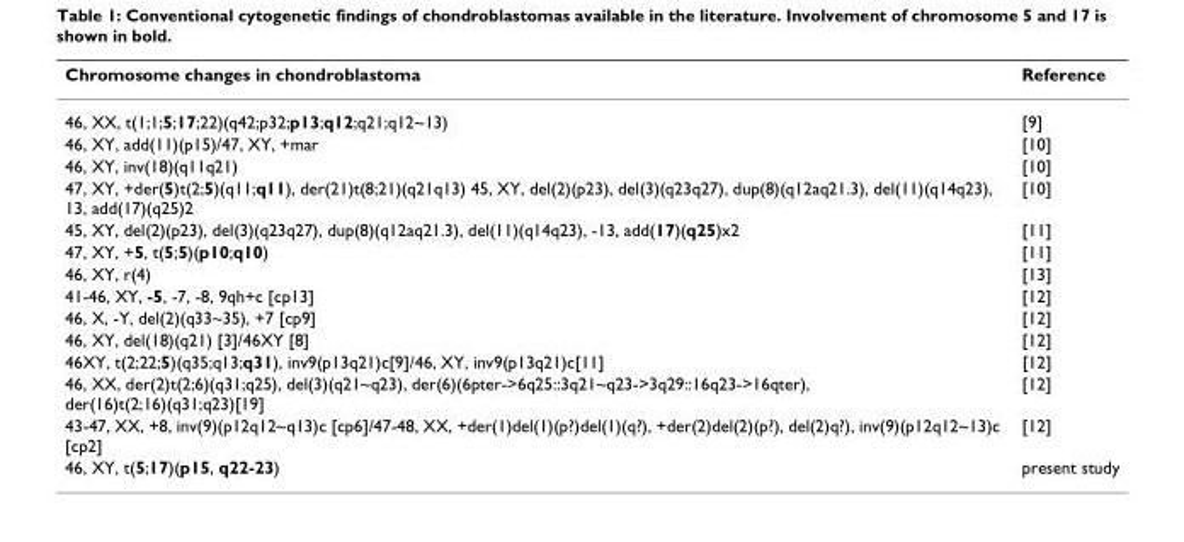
<table><thead><tr><td>Chromosome changes in chondroblastoma</td><td>Reference</td></tr></thead><tbody><tr><td>46, XX, t(1;1;5;17;22)(q42;p32;p13;q12;q21;q12~13)</td><td>[9]</td></tr><tr><td>46, XY, add(11)(p15)/47, XY, +mar</td><td>[10]</td></tr><tr><td>46, XY, inv(18)(q11q21)</td><td>[10]</td></tr><tr><td>47, XY, +der(5)t(2;5)(q11;q11), der(21)t(8;21)(q21q13) 45, XY, del(2)(p23), del(3)(q23q27), dup(8)(q12aq21.3), del(11)(q14q23), 13, add(17)(q25)2</td><td>[10]</td></tr><tr><td>45, XY, del(2)(p23), del(3)(q23q27), dup(8)(q12aq21.3), del(11)(q14q23), -13, add(17)(q25)x2</td><td>[11]</td></tr><tr><td>47, XY, +5, t(5;5)(p10;q10)</td><td>[11]</td></tr><tr><td>46, XY, r(4)</td><td>[13]</td></tr><tr><td>41-46, XY, -5, -7, -8, 9qh+c [cp13]</td><td>[12]</td></tr><tr><td>46, X, -Y, del(2)(q33~35), +7 [cp9]</td><td>[12]</td></tr><tr><td>46, XY, del(18)(q21) [3]/46XY [8]</td><td>[12]</td></tr><tr><td>46XY, t(2;22;5)(q35;q13;q31), inv9(p13q21)c[9]/46, XY, inv9(p13q21)c[11]</td><td>[12]</td></tr><tr><td>46, XX, der(2)t(2;6)(q31;q25), del(3)(q21~q23), der(6)(6pter-&gt;6q25::3q21~q23-&gt;3q29::16q23-&gt;16qter), der(16)t(2;16)(q31;q23)[19]</td><td>[12]</td></tr><tr><td>43-47, XX, +8, inv(9)(p12q12~q13)c [cp6]/47-48, XX, +der(1)del(1)(p?)del(1)(q?), +der(2)del(2)(p?), del(2)q?), inv(9)(p12q12~13)c [cp2]</td><td>[12]</td></tr><tr><td>46, XY, t(5;17)(p15, q22-23)</td><td>present study</td></tr></tbody></table>